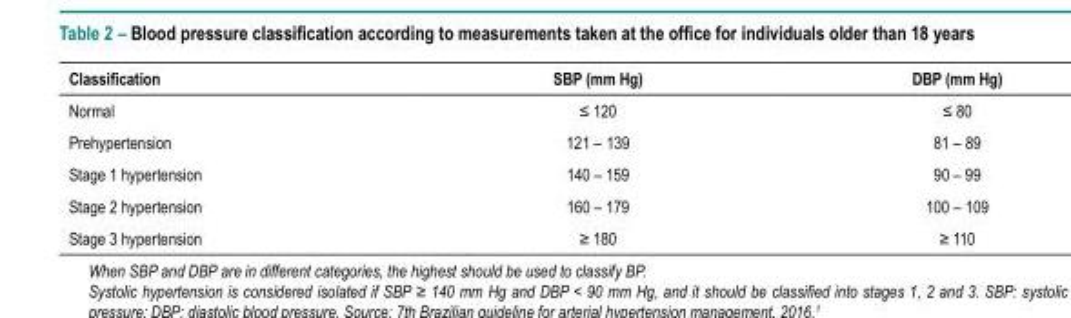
<table><thead><tr><td>Classification</td><td>SBP (mm Hg)</td><td>DBP (mm Hg)</td></tr></thead><tbody><tr><td>Normal</td><td>≤ 120</td><td>≤ 80</td></tr><tr><td>Prehypertension</td><td>121 – 139</td><td>81 – 89</td></tr><tr><td>Stage 1 hypertension</td><td>140 – 159</td><td>90 – 99</td></tr><tr><td>Stage 2 hypertension</td><td>160 – 179</td><td>100 – 109</td></tr><tr><td>Stage 3 hypertension</td><td>≥ 180</td><td>≥ 110</td></tr></tbody></table>